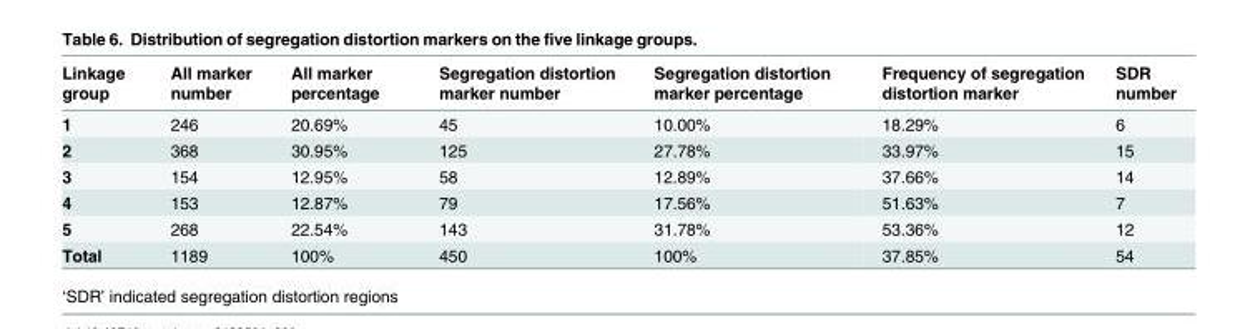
<table><thead><tr><td>Linkage group</td><td>All marker number</td><td>All marker percentage</td><td>Segregation distortion marker number</td><td>Segregation distortion marker percentage</td><td>Frequency of segregation distortion marker</td><td>SDR number</td></tr></thead><tbody><tr><td>1</td><td>246</td><td>20.69%</td><td>45</td><td>10.00%</td><td>18.29%</td><td>6</td></tr><tr><td>2</td><td>368</td><td>30.95%</td><td>125</td><td>27.78%</td><td>33.97%</td><td>15</td></tr><tr><td>3</td><td>154</td><td>12.95%</td><td>58</td><td>12.89%</td><td>37.66%</td><td>14</td></tr><tr><td>4</td><td>153</td><td>12.87%</td><td>79</td><td>17.56%</td><td>51.63%</td><td>7</td></tr><tr><td>5</td><td>268</td><td>22.54%</td><td>143</td><td>31.78%</td><td>53.36%</td><td>12</td></tr><tr><td>Total</td><td>1189</td><td>100%</td><td>450</td><td>100%</td><td>37.85%</td><td>54</td></tr></tbody></table>